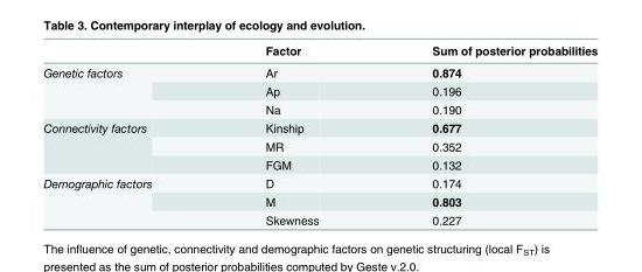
<table><thead><tr><td></td><td>Factor</td><td>Sum of posterior probabilities</td></tr></thead><tbody><tr><td rowspan="3">Genetic factors</td><td>Ar</td><td>0.874</td></tr><tr><td>Ap</td><td>0.196</td></tr><tr><td>Na</td><td>0.190</td></tr><tr><td rowspan="3">Connectivity factors</td><td>Kinship</td><td>0.677</td></tr><tr><td>MR</td><td>0.352</td></tr><tr><td>FGM</td><td>0.132</td></tr><tr><td rowspan="3">Demographic factors</td><td>D</td><td>0.174</td></tr><tr><td>M</td><td>0.803</td></tr><tr><td>Skewness</td><td>0.227</td></tr></tbody></table>